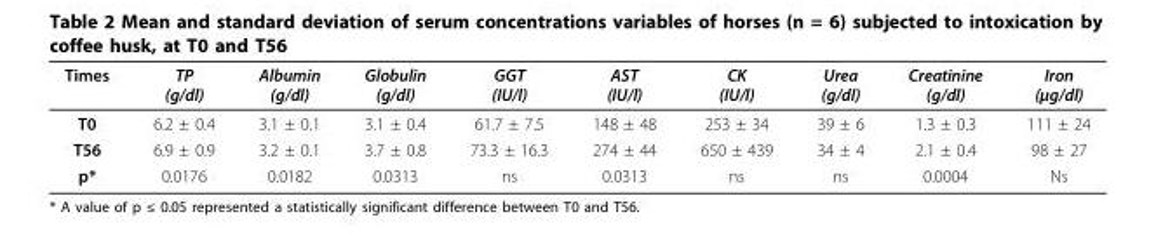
<table><thead><tr><td>Times</td><td>TP (g/dl)</td><td>Albumin (g/dl)</td><td>Globulin (g/dl)</td><td>GGT (IU/l)</td><td>AST (IU/l)</td><td>CK (IU/l)</td><td>Urea (g/dl)</td><td>Creatinine (g/dl)</td><td>Iron (μg/dl)</td></tr></thead><tbody><tr><td>T0</td><td>6.2 ± 0.4</td><td>3.1 ± 0.1</td><td>3.1 ± 0.4</td><td>61.7 ± 7.5</td><td>148 ± 48</td><td>253 ± 34</td><td>39 ± 6</td><td>1.3 ± 0.3</td><td>111 ± 24</td></tr><tr><td>T56</td><td>6.9 ± 0.9</td><td>3.2 ± 0.1</td><td>3.7 ± 0.8</td><td>73.3 ± 16.3</td><td>274 ± 44</td><td>650 ± 439</td><td>34 ± 4</td><td>2.1 ± 0.4</td><td>98 ± 27</td></tr><tr><td>p*</td><td>0.0176</td><td>0.0182</td><td>0.0313</td><td>ns</td><td>0.0313</td><td>ns</td><td>ns</td><td>0.0004</td><td>Ns</td></tr></tbody></table>